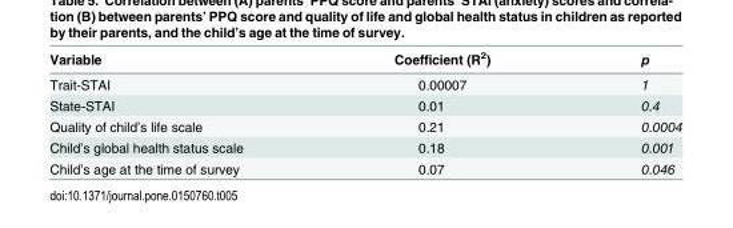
<table><thead><tr><td>Variable</td><td>Coefficient (R<sup>2</sup>)</td><td>p</td></tr></thead><tbody><tr><td>Trait-STAI</td><td>0.00007</td><td>1</td></tr><tr><td>State-STAI</td><td>0.01</td><td>0.4</td></tr><tr><td>Quality of child’s life scale</td><td>0.21</td><td>0.0004</td></tr><tr><td>Child’s global health status scale</td><td>0.18</td><td>0.001</td></tr><tr><td>Child’s age at the time of survey</td><td>0.07</td><td>0.046</td></tr></tbody></table>